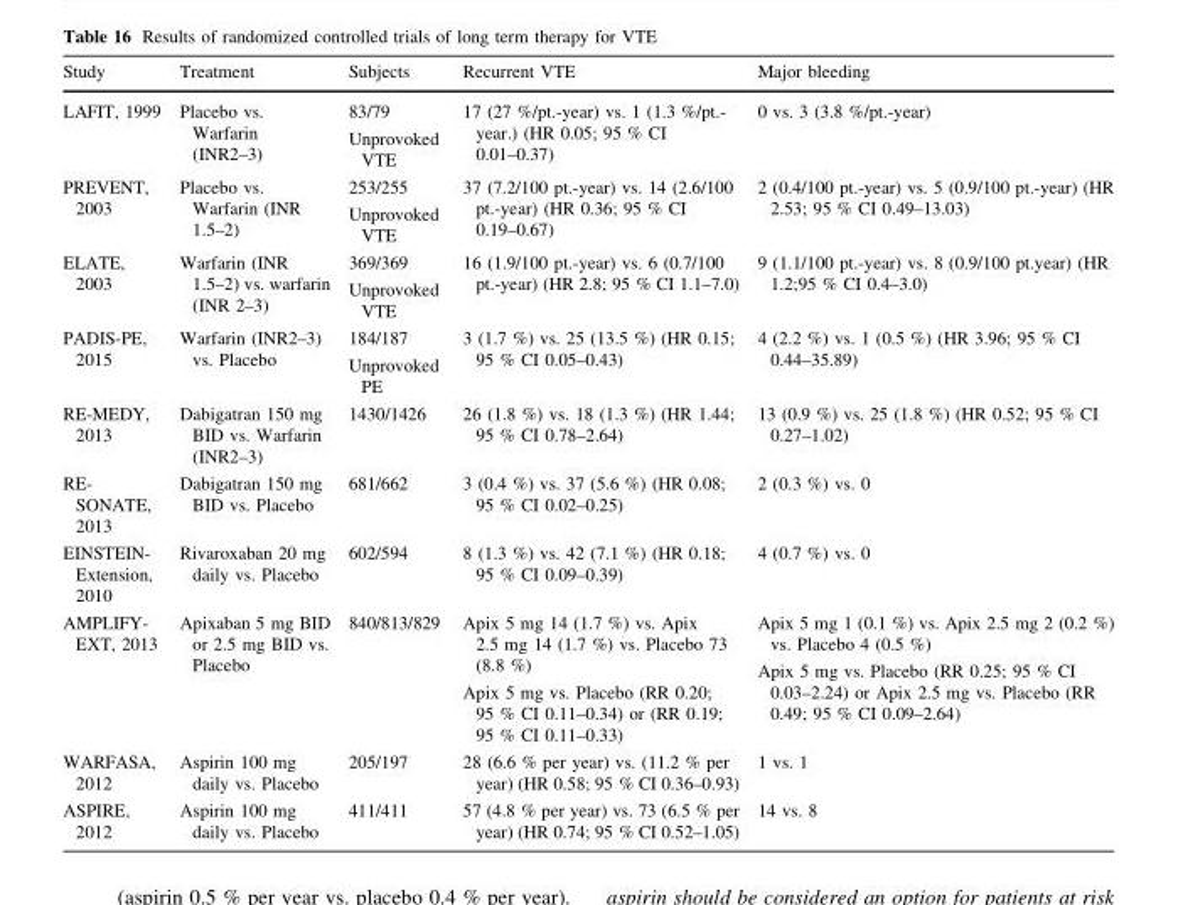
<table><thead><tr><td>Study</td><td>Treatment</td><td>Subjects</td><td>Recurrent VTE</td><td>Major bleeding</td></tr></thead><tbody><tr><td>LAFIT, 1999</td><td>Placebo vs. Warfarin (INR2–3)</td><td>83/79 Unprovoked VTE</td><td>17 (27 %/pt.-year) vs. 1 (1.3 %/pt.- year.) (HR 0.05; 95 % CI 0.01–0.37)</td><td>0 vs. 3 (3.8 %/pt.-year)</td></tr><tr><td>PREVENT, 2003</td><td>Placebo vs. Warfarin (INR 1.5–2)</td><td>253/255 Unprovoked VTE</td><td>37 (7.2/100 pt.-year) vs. 14 (2.6/100 pt.-year) (HR 0.36; 95 % CI 0.19–0.67)</td><td>2 (0.4/100 pt.-year) vs. 5 (0.9/100 pt.-year) (HR 2.53; 95 % CI 0.49–13.03)</td></tr><tr><td>ELATE, 2003</td><td>Warfarin (INR 1.5–2) vs. warfarin (INR 2–3)</td><td>369/369 Unprovoked VTE</td><td>16 (1.9/100 pt.-year) vs. 6 (0.7/100 pt.-year) (HR 2.8; 95 % CI 1.1–7.0)</td><td>9 (1.1/100 pt.-year) vs. 8 (0.9/100 pt.year) (HR 1.2;95 % CI 0.4–3.0)</td></tr><tr><td>PADIS-PE, 2015</td><td>Warfarin (INR2–3) vs. Placebo</td><td>184/187 Unprovoked PE</td><td>3 (1.7 %) vs. 25 (13.5 %) (HR 0.15; 95 % CI 0.05–0.43)</td><td>4 (2.2 %) vs. 1 (0.5 %) (HR 3.96; 95 % CI 0.44–35.89)</td></tr><tr><td>RE-MEDY, 2013</td><td>Dabigatran 150 mg BID vs. Warfarin (INR2–3)</td><td>1430/1426</td><td>26 (1.8 %) vs. 18 (1.3 %) (HR 1.44; 95 % CI 0.78–2.64)</td><td>13 (0.9 %) vs. 25 (1.8 %) (HR 0.52; 95 % CI 0.27–1.02)</td></tr><tr><td>RE- SONATE, 2013</td><td>Dabigatran 150 mg BID vs. Placebo</td><td>681/662</td><td>3 (0.4 %) vs. 37 (5.6 %) (HR 0.08; 95 % CI 0.02–0.25)</td><td>2 (0.3 %) vs. 0</td></tr><tr><td>EINSTEIN- Extension, 2010</td><td>Rivaroxaban 20 mg daily vs. Placebo</td><td>602/594</td><td>8 (1.3 %) vs. 42 (7.1 %) (HR 0.18; 95 % CI 0.09–0.39)</td><td>4 (0.7 %) vs. 0</td></tr><tr><td>AMPLIFY- EXT, 2013</td><td>Apixaban 5 mg BID or 2.5 mg BID vs. Placebo</td><td>840/813/829</td><td>Apix 5 mg 14 (1.7 %) vs. Apix 2.5 mg 14 (1.7 %) vs. Placebo 73 (8.8 %) Apix 5 mg vs. Placebo (RR 0.20; 95 % CI 0.11–0.34) or (RR 0.19; 95 % CI 0.11–0.33)</td><td>Apix 5 mg 1 (0.1 %) vs. Apix 2.5 mg 2 (0.2 %) vs. Placebo 4 (0.5 %) Apix 5 mg vs. Placebo (RR 0.25; 95 % CI 0.03–2.24) or Apix 2.5 mg vs. Placebo (RR 0.49; 95 % CI 0.09–2.64)</td></tr><tr><td>WARFASA, 2012</td><td>Aspirin 100 mg daily vs. Placebo</td><td>205/197</td><td>28 (6.6 % per year) vs. (11.2 % per year) (HR 0.58; 95 % CI 0.36–0.93)</td><td>1 vs. 1</td></tr><tr><td>ASPIRE, 2012</td><td>Aspirin 100 mg daily vs. Placebo</td><td>411/411</td><td>57 (4.8 % per year) vs. 73 (6.5 % per year) (HR 0.74; 95 % CI 0.52–1.05)</td><td>14 vs. 8</td></tr></tbody></table>